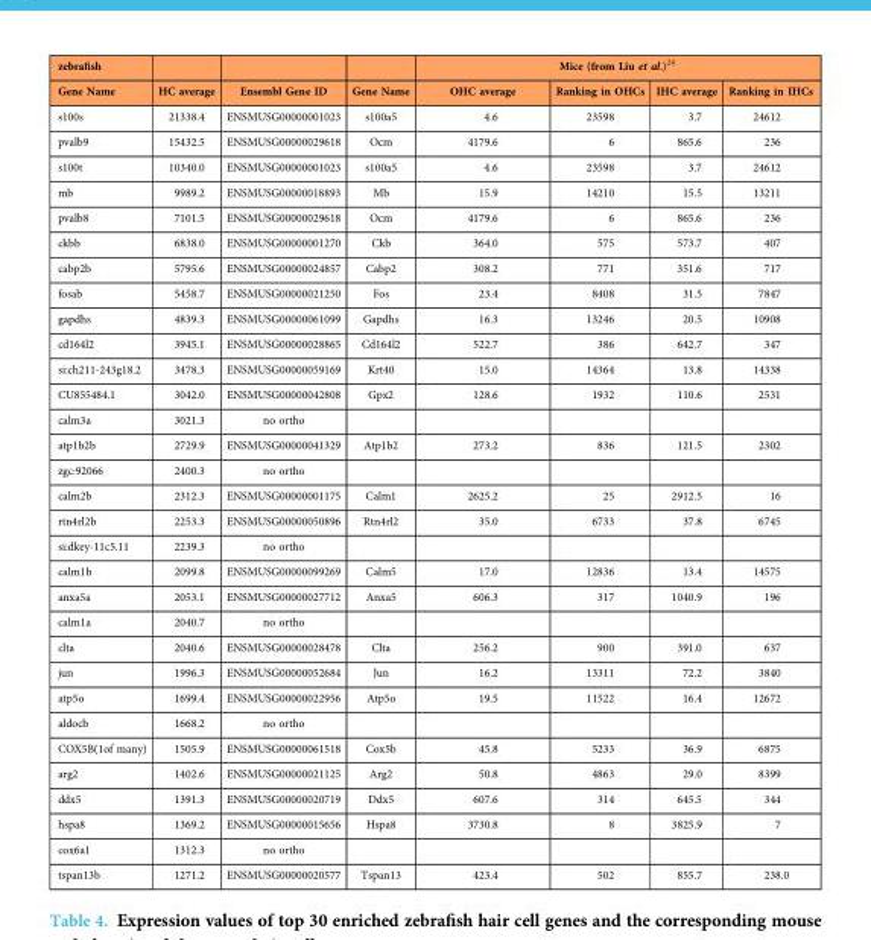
<table><thead><tr><td rowspan="2">zebrafish Gene Name</td><td rowspan="2">HC average</td><td rowspan="2">Ensembl Gene ID</td><td rowspan="2">Gene Name</td><td colspan="4">Mice (from Liu et al.)<sup>24</sup></td></tr><tr><td>OHC average</td><td>Ranking in OHCs</td><td>IHC average</td><td>Ranking in IHCs</td></tr></thead><tbody><tr><td>s100s</td><td>21338.4</td><td>ENSMUSG00000001023</td><td>s100a5</td><td>4.6</td><td>23598</td><td>3.7</td><td>24612</td></tr><tr><td>pvalb9</td><td>15432.5</td><td>ENSMUSG00000029618</td><td>Ocm</td><td>4179.6</td><td>6</td><td>865.6</td><td>236</td></tr><tr><td>s100t</td><td>10340.0</td><td>ENSMUSG00000001023</td><td>s100a5</td><td>4.6</td><td>23598</td><td>3.7</td><td>24612</td></tr><tr><td>mb</td><td>9989.2</td><td>ENSMUSG00000018893</td><td>Mb</td><td>15.9</td><td>14210</td><td>15.5</td><td>13211</td></tr><tr><td>pvalb8</td><td>7101.5</td><td>ENSMUSG00000029618</td><td>Ocm</td><td>4179.6</td><td>6</td><td>865.6</td><td>236</td></tr><tr><td>ckbb</td><td>6838.0</td><td>ENSMUSG00000001270</td><td>Ckb</td><td>364.0</td><td>575</td><td>573.7</td><td>407</td></tr><tr><td>cabp2b</td><td>5795.6</td><td>ENSMUSG00000024857</td><td>Cabp2</td><td>308.2</td><td>771</td><td>351.6</td><td>717</td></tr><tr><td>fosab</td><td>5458.7</td><td>ENSMUSG00000021250</td><td>Fos</td><td>23.4</td><td>8408</td><td>31.5</td><td>7847</td></tr><tr><td>gapdhs</td><td>4839.3</td><td>ENSMUSG00000061099</td><td>Gapdhs</td><td>16.3</td><td>13246</td><td>20.5</td><td>10908</td></tr><tr><td>cd164l2</td><td>3945.1</td><td>ENSMUSG00000028865</td><td>Cd164l2</td><td>522.7</td><td>386</td><td>642.7</td><td>347</td></tr><tr><td>si:ch211-243g18.2</td><td>3478.3</td><td>ENSMUSG00000059169</td><td>Krt40</td><td>15.0</td><td>14364</td><td>13.8</td><td>14338</td></tr><tr><td>CU855484.1</td><td>3042.0</td><td>ENSMUSG00000042808</td><td>Gpx2</td><td>128.6</td><td>1932</td><td>110.6</td><td>2531</td></tr><tr><td>calm3a</td><td>3021.3</td><td>no ortho</td><td></td><td></td><td></td><td></td><td></td></tr><tr><td>atp1b2b</td><td>2729.9</td><td>ENSMUSG00000041329</td><td>Atp1b2</td><td>273.2</td><td>836</td><td>121.5</td><td>2302</td></tr><tr><td>zgc:92066</td><td>2400.3</td><td>no ortho</td><td></td><td></td><td></td><td></td><td></td></tr><tr><td>calm2b</td><td>2312.3</td><td>ENSMUSG00000001175</td><td>Calm1</td><td>2625.2</td><td>25</td><td>2912.5</td><td>16</td></tr><tr><td>rtn4rl2b</td><td>2253.3</td><td>ENSMUSG00000050896</td><td>Rtn4rl2</td><td>35.0</td><td>6733</td><td>37.8</td><td>6745</td></tr><tr><td>si:dkey-11c5.11</td><td>2239.3</td><td>no ortho</td><td></td><td></td><td></td><td></td><td></td></tr><tr><td>calm1b</td><td>2099.8</td><td>ENSMUSG00000099269</td><td>Calm5</td><td>17.0</td><td>12836</td><td>13.4</td><td>14575</td></tr><tr><td>anxa5a</td><td>2053.1</td><td>ENSMUSG00000027712</td><td>Anxa5</td><td>606.3</td><td>317</td><td>1040.9</td><td>196</td></tr><tr><td>calm1a</td><td>2040.7</td><td>no ortho</td><td></td><td></td><td></td><td></td><td></td></tr><tr><td>clta</td><td>2040.6</td><td>ENSMUSG00000028478</td><td>Clta</td><td>256.2</td><td>900</td><td>391.0</td><td>637</td></tr><tr><td>jun</td><td>1996.3</td><td>ENSMUSG00000052684</td><td>Jun</td><td>16.2</td><td>13311</td><td>72.2</td><td>3840</td></tr><tr><td>atp5o</td><td>1699.4</td><td>ENSMUSG00000022956</td><td>Atp5o</td><td>19.5</td><td>11522</td><td>16.4</td><td>12672</td></tr><tr><td>aldocb</td><td>1668.2</td><td>no ortho</td><td></td><td></td><td></td><td></td><td></td></tr><tr><td>COX5B(1of many)</td><td>1505.9</td><td>ENSMUSG00000061518</td><td>Cox5b</td><td>45.8</td><td>5233</td><td>36.9</td><td>6875</td></tr><tr><td>arg2</td><td>1402.6</td><td>ENSMUSG00000021125</td><td>Arg2</td><td>50.8</td><td>4863</td><td>29.0</td><td>8399</td></tr><tr><td>ddx5</td><td>1391.3</td><td>ENSMUSG00000020719</td><td>Ddx5</td><td>607.6</td><td>314</td><td>645.5</td><td>344</td></tr><tr><td>hspa8</td><td>1369.2</td><td>ENSMUSG00000015656</td><td>Hspa8</td><td>3730.8</td><td>8</td><td>3825.9</td><td>7</td></tr><tr><td>cox6a1</td><td>1312.3</td><td>no ortho</td><td></td><td></td><td></td><td></td><td></td></tr><tr><td>tspan13b</td><td>1271.2</td><td>ENSMUSG00000020577</td><td>Tspan13</td><td>423.4</td><td>502</td><td>855.7</td><td>238.0</td></tr></tbody></table>